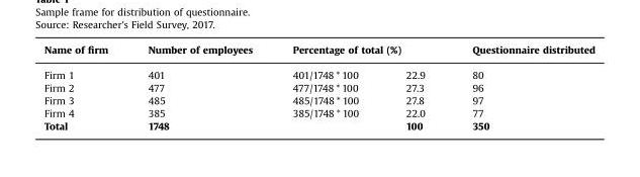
<table><thead><tr><td rowspan="2">Name of firm Firm 1</td><td rowspan="2">Number of employees 401</td><td colspan="2">Percentage of total (%)</td><td rowspan="2">Questionnaire distributed 80</td></tr><tr><td>401/1748 * 100</td><td>22.9</td></tr></thead><tbody><tr><td>Firm 2</td><td>477</td><td>477/1748 * 100</td><td>27.3</td><td>96</td></tr><tr><td>Firm 3</td><td>485</td><td>485/1748 * 100</td><td>27.8</td><td>97</td></tr><tr><td>Firm 4</td><td>385</td><td>385/1748 * 100</td><td>22.0</td><td>77</td></tr><tr><td>Total</td><td>1748</td><td></td><td>100</td><td>350</td></tr></tbody></table>